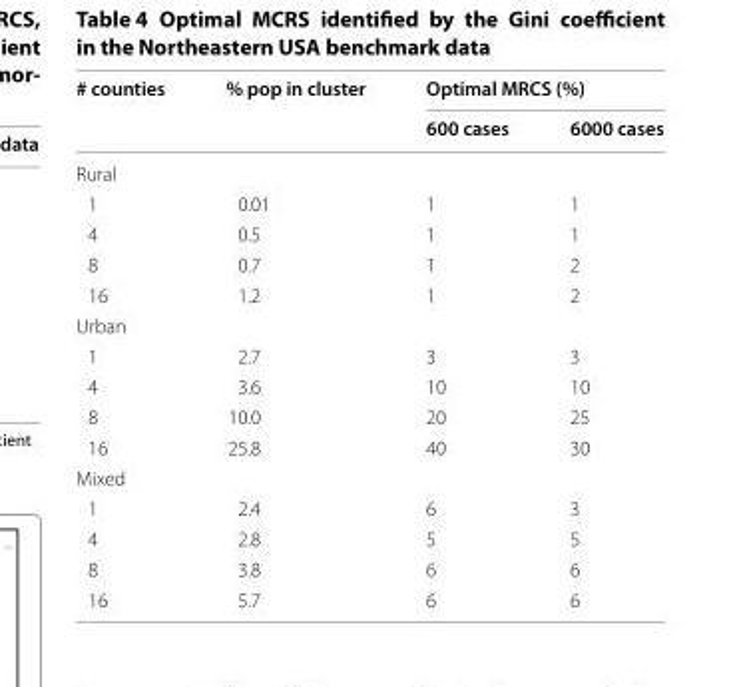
<table><thead><tr><td rowspan="2"># counties</td><td rowspan="2">% pop in cluster</td><td colspan="2">Optimal MRCS (%)</td></tr><tr><td>600 cases</td><td>6000 cases</td></tr></thead><tbody><tr><td colspan="4">Rural</td></tr><tr><td>1</td><td>0.01</td><td>1</td><td>1</td></tr><tr><td>4</td><td>0.5</td><td>1</td><td>1</td></tr><tr><td>8</td><td>0.7</td><td>1</td><td>2</td></tr><tr><td>16</td><td>1.2</td><td>1</td><td>2</td></tr><tr><td colspan="4">Urban</td></tr><tr><td>1</td><td>2.7</td><td>3</td><td>3</td></tr><tr><td>4</td><td>3.6</td><td>10</td><td>10</td></tr><tr><td>8</td><td>10.0</td><td>20</td><td>25</td></tr><tr><td>16</td><td>25.8</td><td>40</td><td>30</td></tr><tr><td colspan="4">Mixed</td></tr><tr><td>1</td><td>2.4</td><td>6</td><td>3</td></tr><tr><td>4</td><td>2.8</td><td>5</td><td>5</td></tr><tr><td>8</td><td>3.8</td><td>6</td><td>6</td></tr><tr><td>16</td><td>5.7</td><td>6</td><td>6</td></tr></tbody></table>